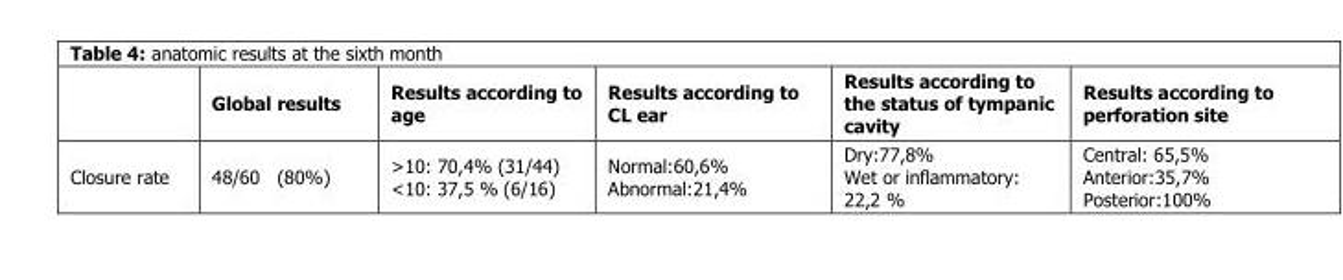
<table><thead><tr><td></td><td>Global results</td><td>Results according to age</td><td>Results according to CL ear</td><td>Results according to the status of tympanic cavity</td><td>Results according to perforation site</td></tr></thead><tbody><tr><td>Closure rate</td><td>48/60 (80%)</td><td>&gt;10: 70,4% (31/44) &lt;10: 37,5 % (6/16)</td><td>Normal:60,6% Abnormal:21,4%</td><td>Dry:77,8% Wet or inflammatory: 22,2 %</td><td>Central: 65,5% Anterior:35,7% Posterior:100%</td></tr></tbody></table>